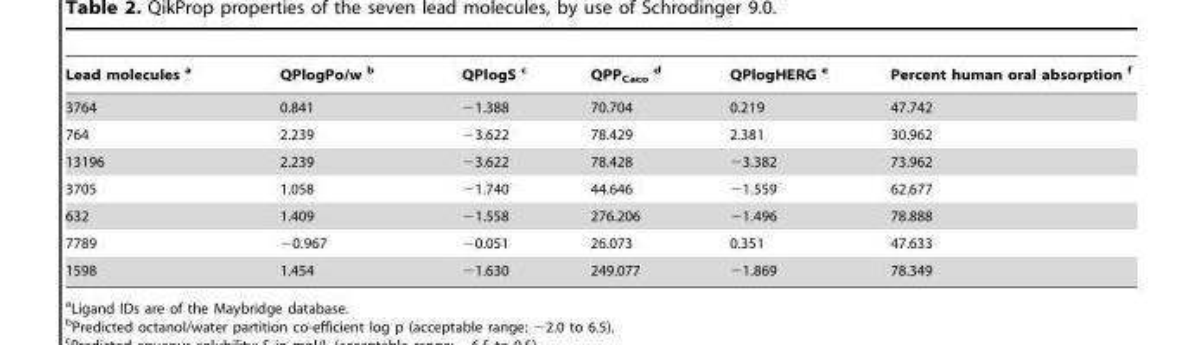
<table><thead><tr><td>Lead molecules a</td><td>QPlogPo/w b</td><td>QPlogS c</td><td>QPP<sub>Caco</sub> d</td><td>QPlogHERG e</td><td>Percent human oral absorption f</td></tr></thead><tbody><tr><td>3764</td><td>0.841</td><td>−1.388</td><td>70.704</td><td>0.219</td><td>47.742</td></tr><tr><td>764</td><td>2.239</td><td>−3.622</td><td>78.429</td><td>2.381</td><td>30.962</td></tr><tr><td>13196</td><td>2.239</td><td>−3.622</td><td>78.428</td><td>−3.382</td><td>73.962</td></tr><tr><td>3705</td><td>1.058</td><td>−1.740</td><td>44.646</td><td>−1.559</td><td>62.677</td></tr><tr><td>632</td><td>1.409</td><td>−1.558</td><td>276.206</td><td>−1.496</td><td>78.888</td></tr><tr><td>7789</td><td>−0.967</td><td>−0.051</td><td>26.073</td><td>0.351</td><td>47.633</td></tr><tr><td>1598</td><td>1.454</td><td>−1.630</td><td>249.077</td><td>−1.869</td><td>78.349</td></tr></tbody></table>